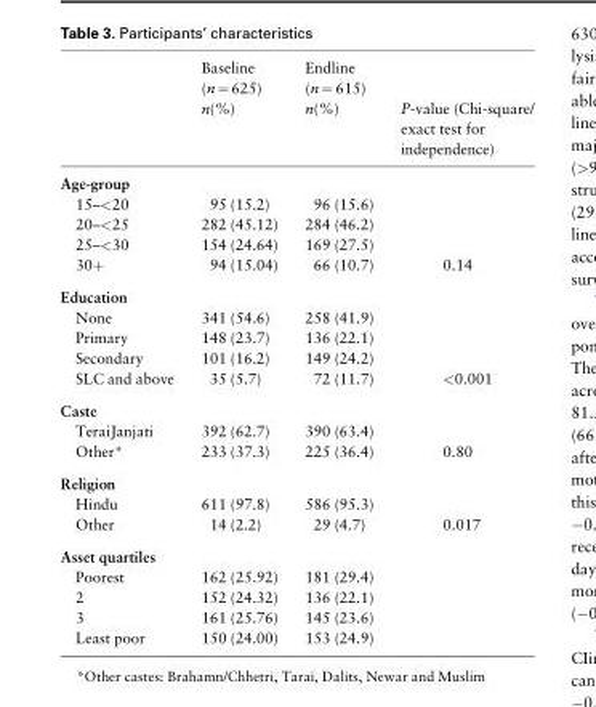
<table><thead><tr><td rowspan="2"></td><td rowspan="2">Baseline (n = 625) n(%)</td><td rowspan="2">Endline (n = 615) n(%)</td><td rowspan="2">P-value (Chi-square/ exact test for independence)</td></tr><tr></tr></thead><tbody><tr><td colspan="4">Age-group</td></tr><tr><td>15–&lt;20</td><td>95 (15.2)</td><td>96 (15.6)</td><td></td></tr><tr><td>20–&lt;25</td><td>282 (45.12)</td><td>284 (46.2)</td><td></td></tr><tr><td>25–&lt;30</td><td>154 (24.64)</td><td>169 (27.5)</td><td></td></tr><tr><td>30+</td><td>94 (15.04)</td><td>66 (10.7)</td><td>0.14</td></tr><tr><td colspan="4">Education</td></tr><tr><td>None</td><td>341 (54.6)</td><td>258 (41.9)</td><td></td></tr><tr><td>Primary</td><td>148 (23.7)</td><td>136 (22.1)</td><td></td></tr><tr><td>Secondary</td><td>101 (16.2)</td><td>149 (24.2)</td><td></td></tr><tr><td>SLC and above</td><td>35 (5.7)</td><td>72 (11.7)</td><td>&lt;0.001</td></tr><tr><td colspan="4">Caste</td></tr><tr><td>TeraiJanjati</td><td>392 (62.7)</td><td>390 (63.4)</td><td></td></tr><tr><td>Other*</td><td>233 (37.3)</td><td>225 (36.4)</td><td>0.80</td></tr><tr><td colspan="4">Religion</td></tr><tr><td>Hindu</td><td>611 (97.8)</td><td>586 (95.3)</td><td></td></tr><tr><td>Other</td><td>14 (2.2)</td><td>29 (4.7)</td><td>0.017</td></tr><tr><td colspan="4">Asset quartiles</td></tr><tr><td>Poorest</td><td>162 (25.92)</td><td>181 (29.4)</td><td></td></tr><tr><td>2</td><td>152 (24.32)</td><td>136 (22.1)</td><td></td></tr><tr><td>3</td><td>161 (25.76)</td><td>145 (23.6)</td><td></td></tr><tr><td>Least poor</td><td>150 (24.00)</td><td>153 (24.9)</td><td></td></tr></tbody></table>